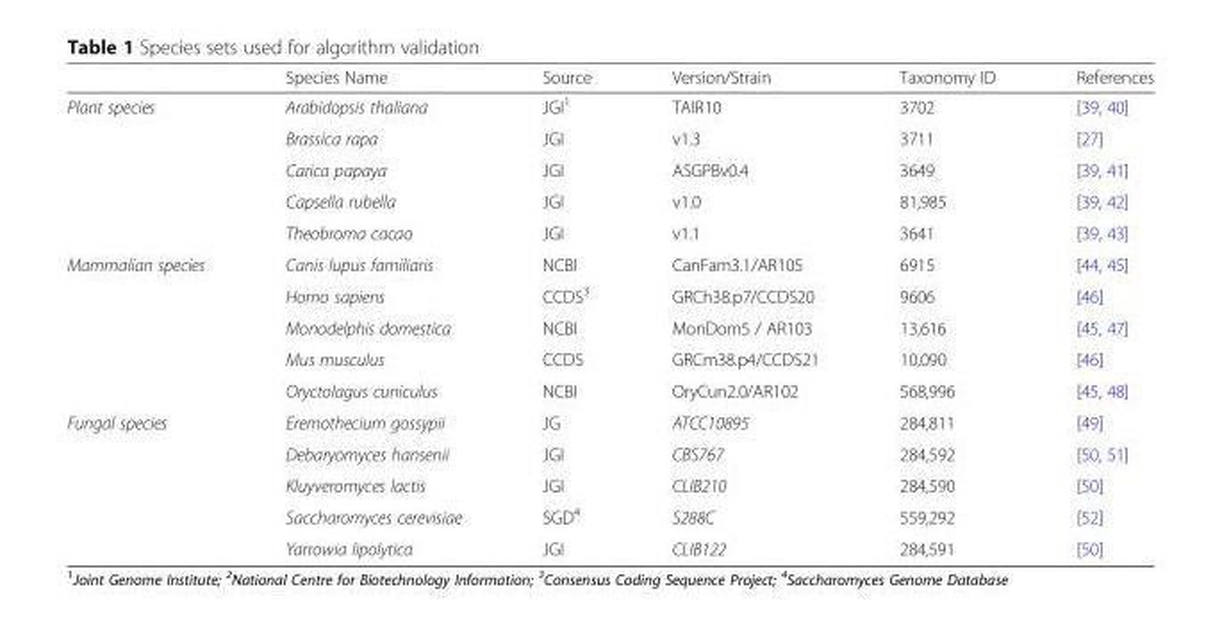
<table><thead><tr><td></td><td>Species Name</td><td>Source</td><td>Version/Strain</td><td>Taxonomy ID</td><td>References</td></tr></thead><tbody><tr><td rowspan="5">Plant species</td><td>Arabidopsis thaliana</td><td>JGI<sup>1</sup></td><td>TAIR10</td><td>3702</td><td>[39, 40]</td></tr><tr><td>Brassica rapa</td><td>JGI</td><td>v1.3</td><td>3711</td><td>[27]</td></tr><tr><td>Carica papaya</td><td>JGI</td><td>ASGPBv0.4</td><td>3649</td><td>[39, 41]</td></tr><tr><td>Capsella rubella</td><td>JGI</td><td>v1.0</td><td>81,985</td><td>[39, 42]</td></tr><tr><td>Theobroma cacao</td><td>JGI</td><td>v1.1</td><td>3641</td><td>[39, 43]</td></tr><tr><td rowspan="5">Mammalian species</td><td>Canis lupus familiaris</td><td>NCBI</td><td>CanFam3.1/AR105</td><td>6915</td><td>[44, 45]</td></tr><tr><td>Homo sapiens</td><td>CCDS<sup>3</sup></td><td>GRCh38.p7/CCDS20</td><td>9606</td><td>[46]</td></tr><tr><td>Monodelphis domestica</td><td>NCBI</td><td>MonDom5 / AR103</td><td>13,616</td><td>[45, 47]</td></tr><tr><td>Mus musculus</td><td>CCDS</td><td>GRCm38.p4/CCDS21</td><td>10,090</td><td>[46]</td></tr><tr><td>Oryctolagus cuniculus</td><td>NCBI</td><td>OryCun2.0/AR102</td><td>568,996</td><td>[45, 48]</td></tr><tr><td rowspan="5">Fungal species</td><td>Eremothecium gossypii</td><td>JG</td><td>ATCC10895</td><td>284,811</td><td>[49]</td></tr><tr><td>Debaryomyces hansenii</td><td>JGI</td><td>CBS767</td><td>284,592</td><td>[50, 51]</td></tr><tr><td>Kluyveromyces lactis</td><td>JGI</td><td>CLIB210</td><td>284,590</td><td>[50]</td></tr><tr><td>Saccharomyces cerevisiae</td><td>SGD<sup>4</sup></td><td>S288C</td><td>559,292</td><td>[52]</td></tr><tr><td>Yarrowia lipolytica</td><td>JGI</td><td>CLIB122</td><td>284,591</td><td>[50]</td></tr></tbody></table>